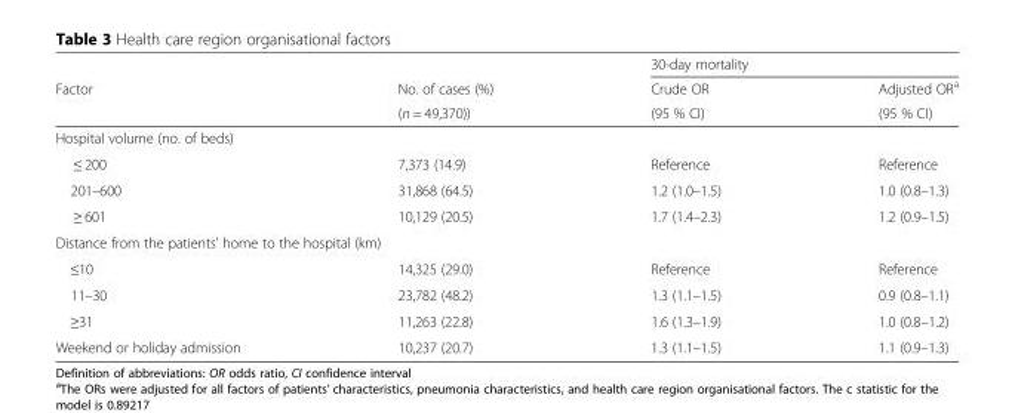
<table><thead><tr><td rowspan="3">Factor</td><td rowspan="3">No. of cases (%) (n = 49,370))</td><td colspan="2">30-day mortality</td></tr><tr><td rowspan="2">Crude OR (95 % CI)</td><td rowspan="2">Adjusted OR<sup>a</sup> (95 % CI)</td></tr><tr></tr></thead><tbody><tr><td colspan="4">Hospital volume (no. of beds)</td></tr><tr><td>≤ 200</td><td>7,373 (14.9)</td><td>Reference</td><td>Reference</td></tr><tr><td>201–600</td><td>31,868 (64.5)</td><td>1.2 (1.0–1.5)</td><td>1.0 (0.8–1.3)</td></tr><tr><td>≥ 601</td><td>10,129 (20.5)</td><td>1.7 (1.4–2.3)</td><td>1.2 (0.9–1.5)</td></tr><tr><td colspan="4">Distance from the patients’ home to the hospital (km)</td></tr><tr><td>≤10</td><td>14,325 (29.0)</td><td>Reference</td><td>Reference</td></tr><tr><td>11–30</td><td>23,782 (48.2)</td><td>1.3 (1.1–1.5)</td><td>0.9 (0.8–1.1)</td></tr><tr><td>≥31</td><td>11,263 (22.8)</td><td>1.6 (1.3–1.9)</td><td>1.0 (0.8–1.2)</td></tr><tr><td>Weekend or holiday admission</td><td>10,237 (20.7)</td><td>1.3 (1.1–1.5)</td><td>1.1 (0.9–1.3)</td></tr></tbody></table>